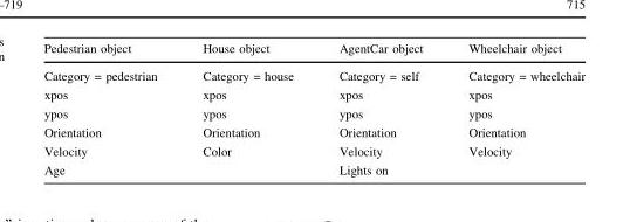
<table><thead><tr><td>Pedestrian object</td><td>House object</td><td>AgentCar object</td><td>Wheelchair object</td></tr></thead><tbody><tr><td>Category = pedestrian</td><td>Category = house</td><td>Category = self</td><td>Category = wheelchair</td></tr><tr><td>xpos</td><td>xpos</td><td>xpos</td><td>xpos</td></tr><tr><td>ypos</td><td>ypos</td><td>ypos</td><td>ypos</td></tr><tr><td>Orientation</td><td>Orientation</td><td>Orientation</td><td>Orientation</td></tr><tr><td>Velocity</td><td>Color</td><td>Velocity</td><td>Velocity</td></tr><tr><td>Age</td><td></td><td>Lights on</td><td></td></tr></tbody></table>